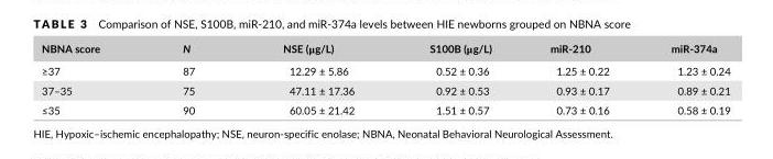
<table><thead><tr><td>NBNA score</td><td>N</td><td>NSE (μg/L)</td><td>S100B (μg/L)</td><td>miR- 210</td><td>miR- 374a</td></tr></thead><tbody><tr><td>≥37</td><td>87</td><td>12.29 ± 5.86</td><td>0.52 ± 0.36</td><td>1.25 ± 0.22</td><td>1.23 ± 0.24</td></tr><tr><td>37–35</td><td>75</td><td>47.11 ± 17.36</td><td>0.92 ± 0.53</td><td>0.93 ± 0.17</td><td>0.89 ± 0.21</td></tr><tr><td>≤35</td><td>90</td><td>60.05 ± 21.42</td><td>1.51 ± 0.57</td><td>0.73 ± 0.16</td><td>0.58 ± 0.19</td></tr></tbody></table>